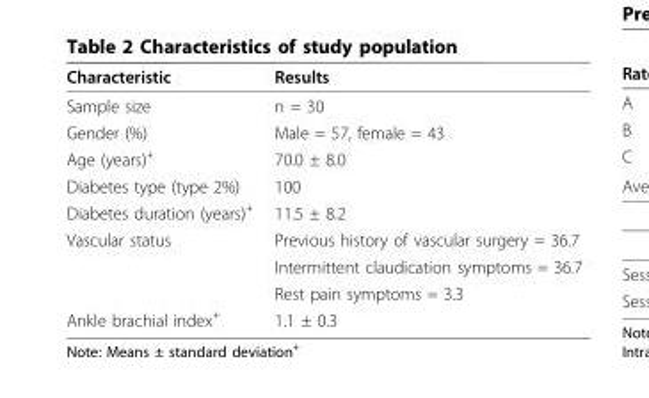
<table><thead><tr><td>Characteristic</td><td>Results</td></tr></thead><tbody><tr><td>Sample size</td><td>n = 30</td></tr><tr><td>Gender (%)</td><td>Male = 57, female = 43</td></tr><tr><td>Age (years)<sup>+</sup></td><td>70.0 ± 8.0</td></tr><tr><td>Diabetes type (type 2%)</td><td>100</td></tr><tr><td>Diabetes duration (years)<sup>+</sup></td><td>11.5 ± 8.2</td></tr><tr><td rowspan="3">Vascular status</td><td>Previous history of vascular surgery = 36.7</td></tr><tr><td>Intermittent claudication symptoms = 36.7</td></tr><tr><td>Rest pain symptoms = 3.3</td></tr><tr><td>Ankle brachial index<sup>+</sup></td><td>1.1 ± 0.3</td></tr></tbody></table>